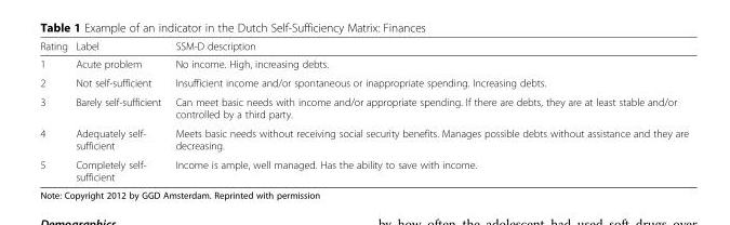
<table><thead><tr><td>Rating</td><td>Label</td><td>SSM-D description</td></tr></thead><tbody><tr><td>1</td><td>Acute problem</td><td>No income. High, increasing debts.</td></tr><tr><td>2</td><td>Not self-sufficient</td><td>Insufficient income and/or spontaneous or inappropriate spending. Increasing debts.</td></tr><tr><td>3</td><td>Barely self-sufficient</td><td>Can meet basic needs with income and/or appropriate spending. If there are debts, they are at least stable and/or controlled by a third party.</td></tr><tr><td>4</td><td>Adequately self- sufficient</td><td>Meets basic needs without receiving social security benefits. Manages possible debts without assistance and they are decreasing.</td></tr><tr><td>5</td><td>Completely self- sufficient</td><td>Income is ample, well managed. Has the ability to save with income.</td></tr></tbody></table>